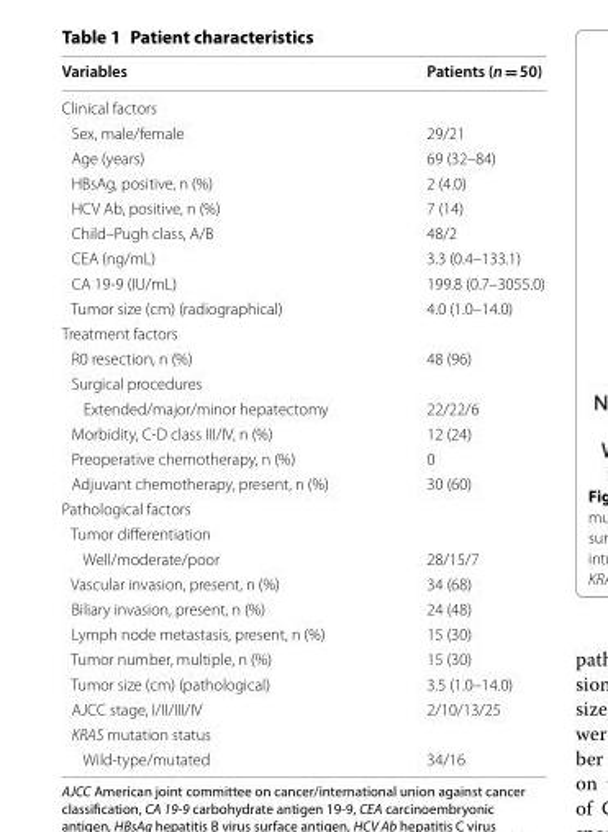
<table><thead><tr><td>Variables</td><td>Patients (n = 50)</td></tr></thead><tbody><tr><td colspan="2">Clinical factors</td></tr><tr><td>Sex, male/female</td><td>29/21</td></tr><tr><td>Age (years)</td><td>69 (32–84)</td></tr><tr><td>HBsAg, positive, n (%)</td><td>2 (4.0)</td></tr><tr><td>HCV Ab, positive, n (%)</td><td>7 (14)</td></tr><tr><td>Child–Pugh class, A/B</td><td>48/2</td></tr><tr><td>CEA (ng/mL)</td><td>3.3 (0.4–133.1)</td></tr><tr><td>CA 19-9 (IU/mL)</td><td>199.8 (0.7–3055.0)</td></tr><tr><td>Tumor size (cm) (radiographical)</td><td>4.0 (1.0–14.0)</td></tr><tr><td colspan="2">Treatment factors</td></tr><tr><td>R0 resection, n (%)</td><td>48 (96)</td></tr><tr><td colspan="2">Surgical procedures</td></tr><tr><td>Extended/major/minor hepatectomy</td><td>22/22/6</td></tr><tr><td>Morbidity, C-D class III/IV, n (%)</td><td>12 (24)</td></tr><tr><td>Preoperative chemotherapy, n (%)</td><td>0</td></tr><tr><td>Adjuvant chemotherapy, present, n (%)</td><td>30 (60)</td></tr><tr><td colspan="2">Pathological factors</td></tr><tr><td colspan="2">Tumor differentiation</td></tr><tr><td>Well/moderate/poor</td><td>28/15/7</td></tr><tr><td>Vascular invasion, present, n (%)</td><td>34 (68)</td></tr><tr><td>Biliary invasion, present, n (%)</td><td>24 (48)</td></tr><tr><td>Lymph node metastasis, present, n (%)</td><td>15 (30)</td></tr><tr><td>Tumor number, multiple, n (%)</td><td>15 (30)</td></tr><tr><td>Tumor size (cm) (pathological)</td><td>3.5 (1.0–14.0)</td></tr><tr><td>AJCC stage, I/II/III/IV</td><td>2/10/13/25</td></tr><tr><td colspan="2">KRAS mutation status</td></tr><tr><td>Wild-type/mutated</td><td>34/16</td></tr></tbody></table>